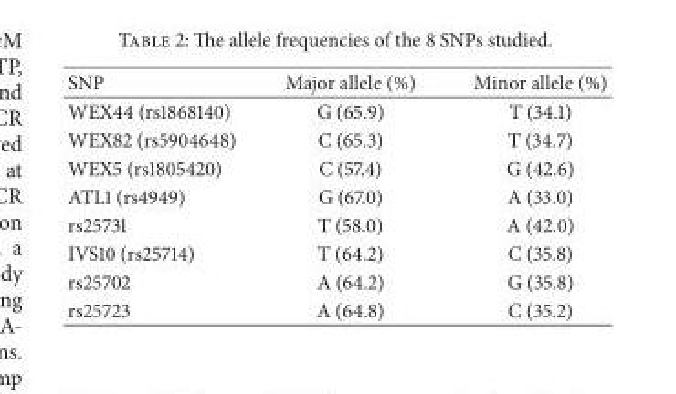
<table><thead><tr><td>SNP</td><td>Major allele (%)</td><td>Minor allele (%)</td></tr></thead><tbody><tr><td>WEX44 (rs1868140)</td><td>G (65.9)</td><td>T (34.1)</td></tr><tr><td>WEX82 (rs5904648)</td><td>C (65.3)</td><td>T (34.7)</td></tr><tr><td>WEX5 (rs1805420)</td><td>C (57.4)</td><td>G (42.6)</td></tr><tr><td>ATL1 (rs4949)</td><td>G (67.0)</td><td>A (33.0)</td></tr><tr><td>rs25731</td><td>T (58.0)</td><td>A (42.0)</td></tr><tr><td>IVS10 (rs25714)</td><td>T (64.2)</td><td>C (35.8)</td></tr><tr><td>rs25702</td><td>A (64.2)</td><td>G (35.8)</td></tr><tr><td>rs25723</td><td>A (64.8)</td><td>C (35.2)</td></tr></tbody></table>